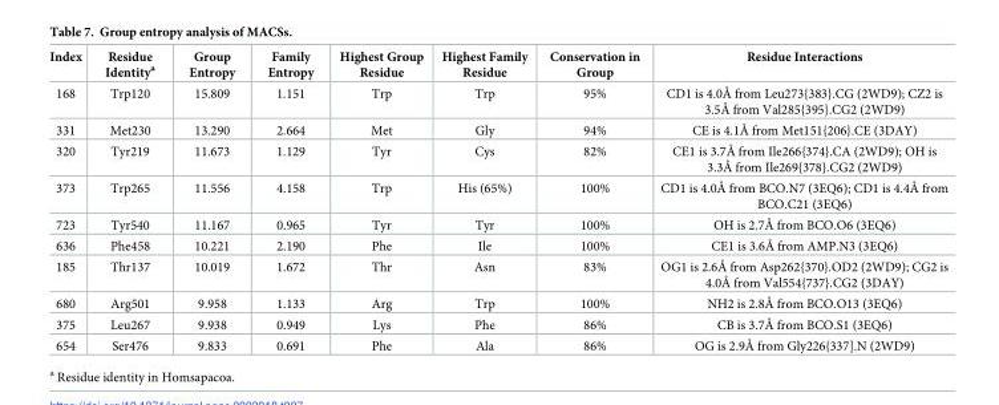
<table><thead><tr><td>Index</td><td>Residue Identity<sup>a</sup></td><td>Group Entropy</td><td>Family Entropy</td><td>Highest Group Residue</td><td>Highest Family Residue</td><td>Conservation in Group</td><td>Residue Interactions</td></tr></thead><tbody><tr><td>168</td><td>Trp120</td><td>15.809</td><td>1.151</td><td>Trp</td><td>Trp</td><td>95%</td><td>CD1 is 4.0Å from Leu273{383}.CG (2WD9); CZ2 is 3.5Å from Val285{395}.CG2 (2WD9)</td></tr><tr><td>331</td><td>Met230</td><td>13.290</td><td>2.664</td><td>Met</td><td>Gly</td><td>94%</td><td>CE is 4.1Å from Met151{206}.CE (3DAY)</td></tr><tr><td>320</td><td>Tyr219</td><td>11.673</td><td>1.129</td><td>Tyr</td><td>Cys</td><td>82%</td><td>CE1 is 3.7Å from Ile266{374}.CA (2WD9); OH is 3.3Å from Ile269{378}.CG2 (2WD9)</td></tr><tr><td>373</td><td>Trp265</td><td>11.556</td><td>4.158</td><td>Trp</td><td>His (65%)</td><td>100%</td><td>CD1 is 4.0Å from BCO.N7 (3EQ6); CD1 is 4.4Å from BCO.C21 (3EQ6)</td></tr><tr><td>723</td><td>Tyr540</td><td>11.167</td><td>0.965</td><td>Tyr</td><td>Tyr</td><td>100%</td><td>OH is 2.7Å from BCO.O6 (3EQ6)</td></tr><tr><td>636</td><td>Phe458</td><td>10.221</td><td>2.190</td><td>Phe</td><td>Ile</td><td>100%</td><td>CE1 is 3.6Å from AMP.N3 (3EQ6)</td></tr><tr><td>185</td><td>Thr137</td><td>10.019</td><td>1.672</td><td>Thr</td><td>Asn</td><td>83%</td><td>OG1 is 2.6Å from Asp262{370}.OD2 (2WD9); CG2 is 4.0Å from Val554{737}.CG2 (3DAY)</td></tr><tr><td>680</td><td>Arg501</td><td>9.958</td><td>1.133</td><td>Arg</td><td>Trp</td><td>100%</td><td>NH2 is 2.8Å from BCO.O13 (3EQ6)</td></tr><tr><td>375</td><td>Leu267</td><td>9.938</td><td>0.949</td><td>Lys</td><td>Phe</td><td>86%</td><td>CB is 3.7Å from BCO.S1 (3EQ6)</td></tr><tr><td>654</td><td>Ser476</td><td>9.833</td><td>0.691</td><td>Phe</td><td>Ala</td><td>86%</td><td>OG is 2.9Å from Gly226{337].N (2WD9)</td></tr></tbody></table>